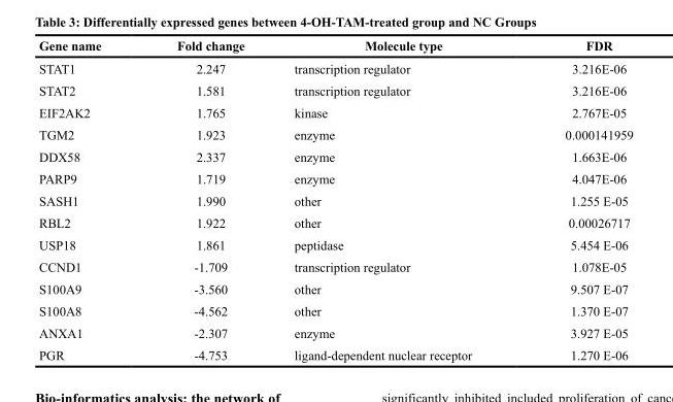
<table><thead><tr><td>Gene name</td><td>Fold change</td><td>Molecule type</td><td>FDR</td></tr></thead><tbody><tr><td>STAT1</td><td>2.247</td><td>transcription regulator</td><td>3.216E-06</td></tr><tr><td>STAT2</td><td>1.581</td><td>transcription regulator</td><td>3.216E-06</td></tr><tr><td>EIF2AK2</td><td>1.765</td><td>kinase</td><td>2.767E-05</td></tr><tr><td>TGM2</td><td>1.923</td><td>enzyme</td><td>0.000141959</td></tr><tr><td>DDX58</td><td>2.337</td><td>enzyme</td><td>1.663E-06</td></tr><tr><td>PARP9</td><td>1.719</td><td>enzyme</td><td>4.047E-06</td></tr><tr><td>SASH1</td><td>1.990</td><td>other</td><td>1.255 E-05</td></tr><tr><td>RBL2</td><td>1.922</td><td>other</td><td>0.00026717</td></tr><tr><td>USP18</td><td>1.861</td><td>peptidase</td><td>5.454 E-06</td></tr><tr><td>CCND1</td><td>-1.709</td><td>transcription regulator</td><td>1.078E-05</td></tr><tr><td>S100A9</td><td>-3.560</td><td>other</td><td>9.507 E-07</td></tr><tr><td>S100A8</td><td>-4.562</td><td>other</td><td>1.370 E-07</td></tr><tr><td>ANXA1</td><td>-2.307</td><td>enzyme</td><td>3.927 E-05</td></tr><tr><td>PGR</td><td>-4.753</td><td>ligand-dependent nuclear receptor</td><td>1.270 E-06</td></tr></tbody></table>